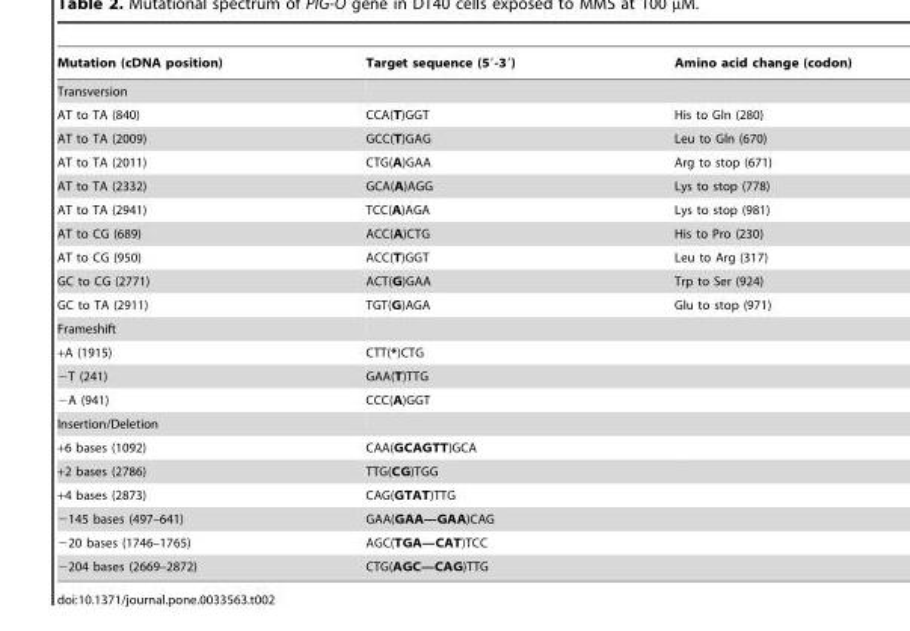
<table><thead><tr><td>Mutation (cDNA position)</td><td>Target sequence (5′-3′)</td><td>Amino acid change (codon)</td></tr></thead><tbody><tr><td colspan="3">Transversion</td></tr><tr><td>AT to TA (840)</td><td>CCA(T)GGT</td><td>His to Gln (280)</td></tr><tr><td>AT to TA (2009)</td><td>GCC(T)GAG</td><td>Leu to Gln (670)</td></tr><tr><td>AT to TA (2011)</td><td>CTG(A)GAA</td><td>Arg to stop (671)</td></tr><tr><td>AT to TA (2332)</td><td>GCA(A)AGG</td><td>Lys to stop (778)</td></tr><tr><td>AT to TA (2941)</td><td>TCC(A)AGA</td><td>Lys to stop (981)</td></tr><tr><td>AT to CG (689)</td><td>ACC(A)CTG</td><td>His to Pro (230)</td></tr><tr><td>AT to CG (950)</td><td>ACC(T)GGT</td><td>Leu to Arg (317)</td></tr><tr><td>GC to CG (2771)</td><td>ACT(G)GAA</td><td>Trp to Ser (924)</td></tr><tr><td>GC to TA (2911)</td><td>TGT(G)AGA</td><td>Glu to stop (971)</td></tr><tr><td colspan="3">Frameshift</td></tr><tr><td>+A (1915)</td><td>CTT(*)CTG</td><td></td></tr><tr><td>−T (241)</td><td>GAA(T)TTG</td><td></td></tr><tr><td>−A (941)</td><td>CCC(A)GGT</td><td></td></tr><tr><td colspan="3">Insertion/Deletion</td></tr><tr><td>+6 bases (1092)</td><td>CAA(GCAGTT)GCA</td><td></td></tr><tr><td>+2 bases (2786)</td><td>TTG(CG)TGG</td><td></td></tr><tr><td>+4 bases (2873)</td><td>CAG(GTAT)TTG</td><td></td></tr><tr><td>−145 bases (497–641)</td><td>GAA(GAA—GAA)CAG</td><td></td></tr><tr><td>−20 bases (1746–1765)</td><td>AGC(TGA—CAT)TCC</td><td></td></tr><tr><td>−204 bases (2669–2872)</td><td>CTG(AGC—CAG)TTG</td><td></td></tr></tbody></table>